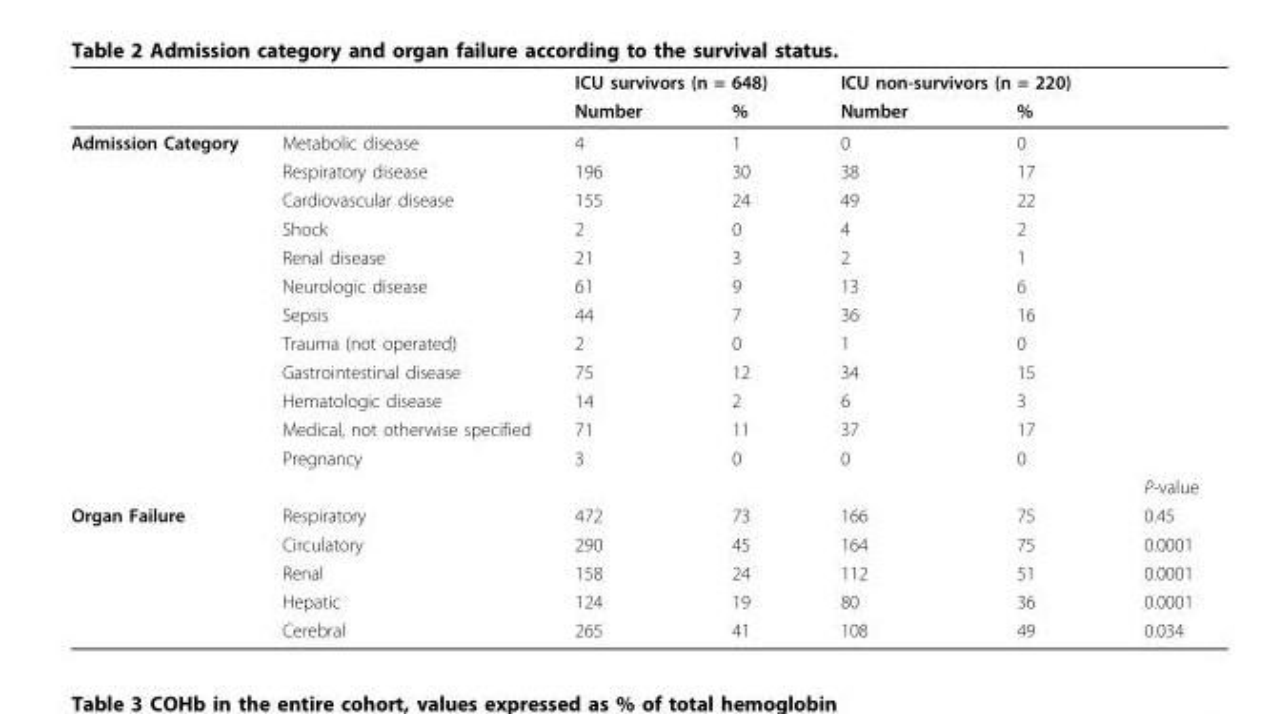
<table><thead><tr><td rowspan="2"></td><td rowspan="2"></td><td colspan="2">ICU survivors (n = 648)</td><td colspan="2">ICU non-survivors (n = 220)</td><td rowspan="2"></td></tr><tr><td>Number</td><td>%</td><td>Number</td><td>%</td></tr></thead><tbody><tr><td rowspan="13">Admission Category</td><td>Metabolic disease</td><td>4</td><td>1</td><td>0</td><td>0</td><td></td></tr><tr><td>Respiratory disease</td><td>196</td><td>30</td><td>38</td><td>17</td><td></td></tr><tr><td>Cardiovascular disease</td><td>155</td><td>24</td><td>49</td><td>22</td><td></td></tr><tr><td>Shock</td><td>2</td><td>0</td><td>4</td><td>2</td><td></td></tr><tr><td>Renal disease</td><td>21</td><td>3</td><td>2</td><td>1</td><td></td></tr><tr><td>Neurologic disease</td><td>61</td><td>9</td><td>13</td><td>6</td><td></td></tr><tr><td>Sepsis</td><td>44</td><td>7</td><td>36</td><td>16</td><td></td></tr><tr><td>Trauma (not operated)</td><td>2</td><td>0</td><td>1</td><td>0</td><td></td></tr><tr><td>Gastrointestinal disease</td><td>75</td><td>12</td><td>34</td><td>15</td><td></td></tr><tr><td>Hematologic disease</td><td>14</td><td>2</td><td>6</td><td>3</td><td></td></tr><tr><td>Medical, not otherwise specified</td><td>71</td><td>11</td><td>37</td><td>17</td><td></td></tr><tr><td>Pregnancy</td><td>3</td><td>0</td><td>0</td><td>0</td><td></td></tr><tr><td></td><td></td><td></td><td></td><td></td><td>P-value</td></tr><tr><td rowspan="5">Organ Failure</td><td>Respiratory</td><td>472</td><td>73</td><td>166</td><td>75</td><td>0.45</td></tr><tr><td>Circulatory</td><td>290</td><td>45</td><td>164</td><td>75</td><td>0.0001</td></tr><tr><td>Renal</td><td>158</td><td>24</td><td>112</td><td>51</td><td>0.0001</td></tr><tr><td>Hepatic</td><td>124</td><td>19</td><td>80</td><td>36</td><td>0.0001</td></tr><tr><td>Cerebral</td><td>265</td><td>41</td><td>108</td><td>49</td><td>0.034</td></tr></tbody></table>